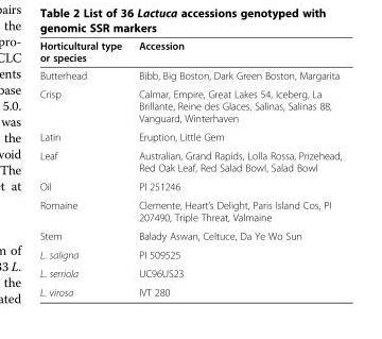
<table><thead><tr><td>Horticultural type or species</td><td>Accession</td></tr></thead><tbody><tr><td>Butterhead</td><td>Bibb, Big Boston, Dark Green Boston, Margarita</td></tr><tr><td>Crisp</td><td>Calmar, Empire, Great Lakes 54, Iceberg, La Brillante, Reine des Glaces, Salinas, Salinas 88, Vanguard, Winterhaven</td></tr><tr><td>Latin</td><td>Eruption, Little Gem</td></tr><tr><td>Leaf</td><td>Australian, Grand Rapids, Lolla Rossa, Prizehead, Red Oak Leaf, Red Salad Bowl, Salad Bowl</td></tr><tr><td>Oil</td><td>PI 251246</td></tr><tr><td>Romaine</td><td>Clemente, Heart’s Delight, Paris Island Cos, PI 207490, Triple Threat, Valmaine</td></tr><tr><td>Stem</td><td>Balady Aswan, Celtuce, Da Ye Wo Sun</td></tr><tr><td>L. saligna</td><td>PI 509525</td></tr><tr><td>L. serriola</td><td>UC96US23</td></tr><tr><td>L. virosa</td><td>IVT 280</td></tr></tbody></table>